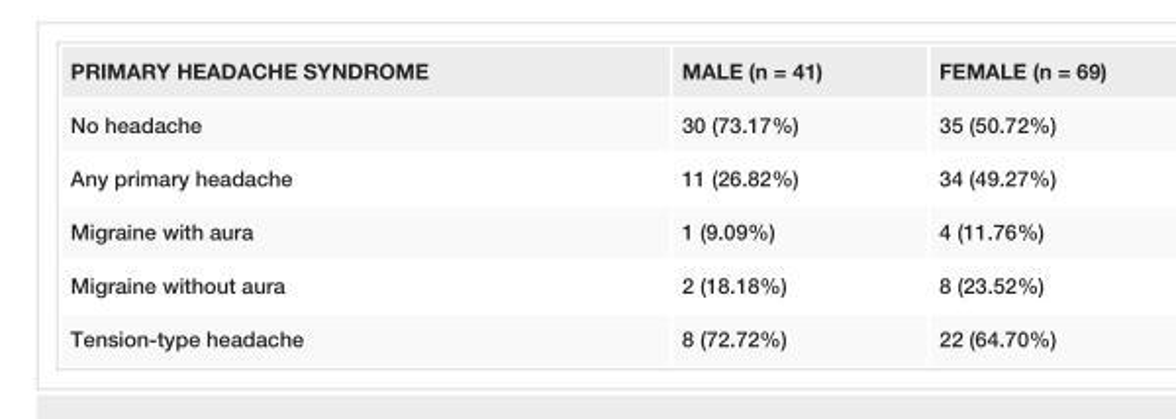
<table><tbody><tr><td>PRIMARY HEADACHE SYNDROME</td><td>MALE (n = 41)</td><td>FEMALE (n = 69)</td></tr><tr><td>No headache</td><td>30 (73.17%)</td><td>35 (50.72%)</td></tr><tr><td>Any primary headache</td><td>11 (26.82%)</td><td>34 (49.27%)</td></tr><tr><td>Migraine with aura</td><td>1 (9.09%)</td><td>4 (11.76%)</td></tr><tr><td>Migraine without aura</td><td>2 (18.18%)</td><td>8 (23.52%)</td></tr><tr><td>Tension-type headache</td><td>8 (72.72%)</td><td>22 (64.70%)</td></tr></tbody></table>